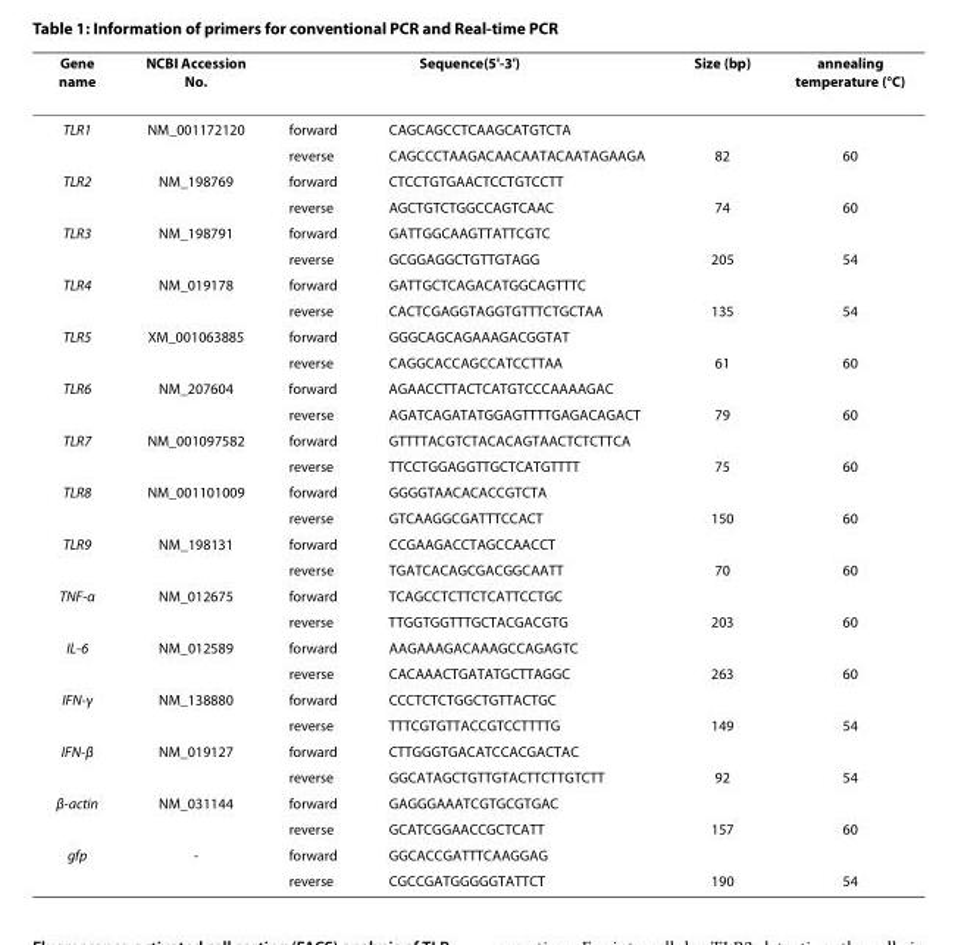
<table><thead><tr><td rowspan="2">Gene name TLR1</td><td rowspan="2">NCBI Accession No. NM_001172120</td><td colspan="2">Sequence(5&#x27;-3&#x27;)</td><td rowspan="2">Size (bp)</td><td rowspan="2">annealing temperature (°C)</td></tr><tr><td>forward</td><td>CAGCAGCCTCAAGCATGTCTA</td></tr></thead><tbody><tr><td></td><td></td><td>reverse</td><td>CAGCCCTAAGACAACAATACAATAGAAGA</td><td>82</td><td>60</td></tr><tr><td rowspan="2">TLR2</td><td>NM_198769</td><td>forward</td><td>CTCCTGTGAACTCCTGTCCTT</td><td></td><td></td></tr><tr><td></td><td>reverse</td><td>AGCTGTCTGGCCAGTCAAC</td><td>74</td><td>60</td></tr><tr><td rowspan="2">TLR3</td><td>NM_198791</td><td>forward</td><td>GATTGGCAAGTTATTCGTC</td><td></td><td></td></tr><tr><td></td><td>reverse</td><td>GCGGAGGCTGTTGTAGG</td><td>205</td><td>54</td></tr><tr><td rowspan="2">TLR4</td><td>NM_019178</td><td>forward</td><td>GATTGCTCAGACATGGCAGTTTC</td><td></td><td></td></tr><tr><td></td><td>reverse</td><td>CACTCGAGGTAGGTGTTTCTGCTAA</td><td>135</td><td>54</td></tr><tr><td rowspan="2">TLR5</td><td>XM_001063885</td><td>forward</td><td>GGGCAGCAGAAAGACGGTAT</td><td></td><td></td></tr><tr><td></td><td>reverse</td><td>CAGGCACCAGCCATCCTTAA</td><td>61</td><td>60</td></tr><tr><td rowspan="2">TLR6</td><td>NM_207604</td><td>forward</td><td>AGAACCTTACTCATGTCCCAAAAGAC</td><td></td><td></td></tr><tr><td></td><td>reverse</td><td>AGATCAGATATGGAGTTTTGAGACAGACT</td><td>79</td><td>60</td></tr><tr><td rowspan="2">TLR7</td><td>NM_001097582</td><td>forward</td><td>GTTTTACGTCTACACAGTAACTCTCTTCA</td><td></td><td></td></tr><tr><td></td><td>reverse</td><td>TTCCTGGAGGTTGCTCATGTTTT</td><td>75</td><td>60</td></tr><tr><td rowspan="2">TLR8</td><td>NM_001101009</td><td>forward</td><td>GGGGTAACACACCGTCTA</td><td></td><td></td></tr><tr><td></td><td>reverse</td><td>GTCAAGGCGATTTCCACT</td><td>150</td><td>60</td></tr><tr><td rowspan="2">TLR9</td><td>NM_198131</td><td>forward</td><td>CCGAAGACCTAGCCAACCT</td><td></td><td></td></tr><tr><td></td><td>reverse</td><td>TGATCACAGCGACGGCAATT</td><td>70</td><td>60</td></tr><tr><td rowspan="2">TNF-α</td><td>NM_012675</td><td>forward</td><td>TCAGCCTCTTCTCATTCCTGC</td><td></td><td></td></tr><tr><td></td><td>reverse</td><td>TTGGTGGTTTGCTACGACGTG</td><td>203</td><td>60</td></tr><tr><td rowspan="2">IL-6</td><td>NM_012589</td><td>forward</td><td>AAGAAAGACAAAGCCAGAGTC</td><td></td><td></td></tr><tr><td></td><td>reverse</td><td>CACAAACTGATATGCTTAGGC</td><td>263</td><td>60</td></tr><tr><td rowspan="2">IFN-γ</td><td>NM_138880</td><td>forward</td><td>CCCTCTCTGGCTGTTACTGC</td><td></td><td></td></tr><tr><td></td><td>reverse</td><td>TTTCGTGTTACCGTCCTTTTG</td><td>149</td><td>54</td></tr><tr><td rowspan="2">IFN-β</td><td>NM_019127</td><td>forward</td><td>CTTGGGTGACATCCACGACTAC</td><td></td><td></td></tr><tr><td></td><td>reverse</td><td>GGCATAGCTGTTGTACTTCTTGTCTT</td><td>92</td><td>54</td></tr><tr><td rowspan="2">β-actin</td><td>NM_031144</td><td>forward</td><td>GAGGGAAATCGTGCGTGAC</td><td></td><td></td></tr><tr><td></td><td>reverse</td><td>GCATCGGAACCGCTCATT</td><td>157</td><td>60</td></tr><tr><td rowspan="2">gfp</td><td>-</td><td>forward</td><td>GGCACCGATTTCAAGGAG</td><td></td><td></td></tr><tr><td></td><td>reverse</td><td>CGCCGATGGGGGTATTCT</td><td>190</td><td>54</td></tr></tbody></table>